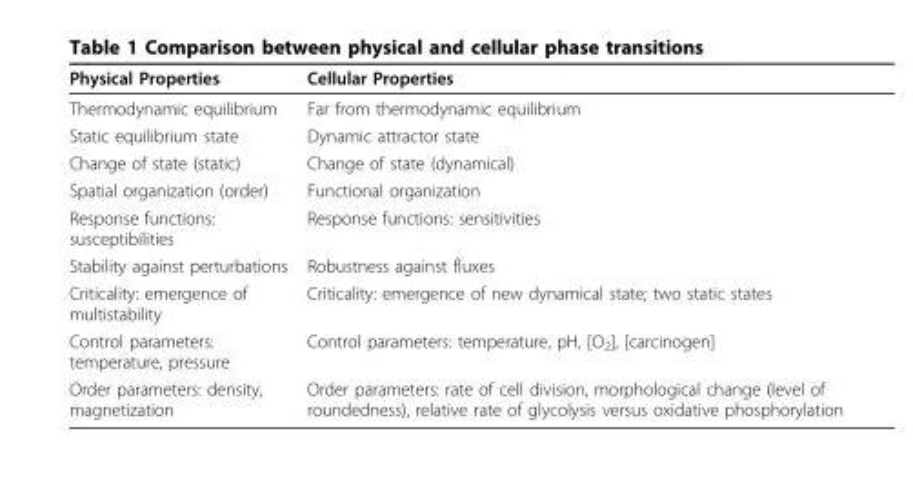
<table><thead><tr><td>Physical Properties</td><td>Cellular Properties</td></tr></thead><tbody><tr><td>Thermodynamic equilibrium</td><td>Far from thermodynamic equilibrium</td></tr><tr><td>Static equilibrium state</td><td>Dynamic attractor state</td></tr><tr><td>Change of state (static)</td><td>Change of state (dynamical)</td></tr><tr><td>Spatial organization (order)</td><td>Functional organization</td></tr><tr><td>Response functions: susceptibilities</td><td>Response functions: sensitivities</td></tr><tr><td>Stability against perturbations</td><td>Robustness against fluxes</td></tr><tr><td>Criticality: emergence of multistability</td><td>Criticality: emergence of new dynamical state; two static states</td></tr><tr><td>Control parameters: temperature, pressure</td><td>Control parameters: temperature, pH, [O<sub>2</sub>], [carcinogen]</td></tr><tr><td>Order parameters: density, magnetization</td><td>Order parameters: rate of cell division, morphological change (level of roundedness), relative rate of glycolysis versus oxidative phosphorylation</td></tr></tbody></table>